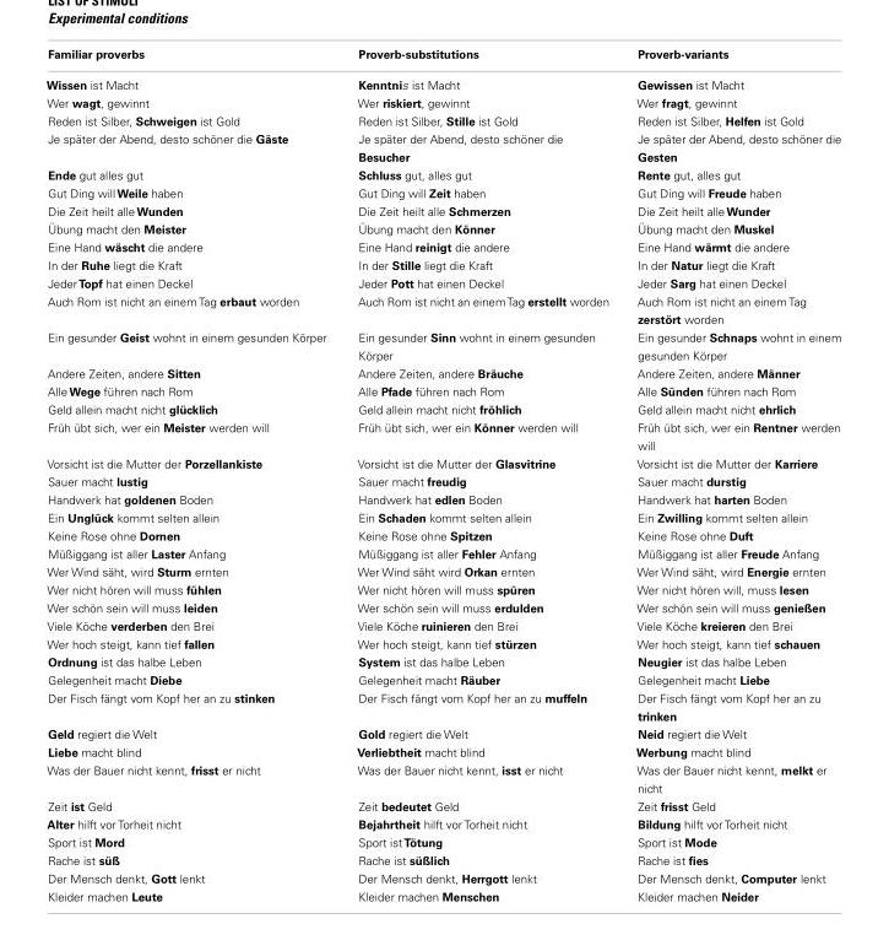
<table><thead><tr><td>Familiar proverbs</td><td>Proverb-substitutions</td><td>Proverb-variants</td></tr></thead><tbody><tr><td>Wissen ist Macht</td><td>Kenntnis ist Macht</td><td>Gewissen ist Macht</td></tr><tr><td>Wer wagt, gewinnt</td><td>Wer riskiert, gewinnt</td><td>Wer fragt, gewinnt</td></tr><tr><td>Reden ist Silber, Schweigen ist Gold</td><td>Reden ist Silber, Stille ist Gold</td><td>Reden ist Silber, Helfen ist Gold</td></tr><tr><td>Je später der Abend, desto schöner die Gäste</td><td>Je später der Abend, desto schöner die Besucher</td><td>Je später der Abend, desto schöner die Gesten</td></tr><tr><td>Ende gut alles gut</td><td>Schluss gut, alles gut</td><td>Rente gut, alles gut</td></tr><tr><td>Gut Ding will Weile haben</td><td>Gut Ding will Zeit haben</td><td>Gut Ding will Freude haben</td></tr><tr><td>Die Zeit heilt alle Wunden</td><td>Die Zeit heilt alle Schmerzen</td><td>Die Zeit heilt alle Wunder</td></tr><tr><td>Übung macht den Meister</td><td>Übung macht den Könner</td><td>Übung macht den Muskel</td></tr><tr><td>Eine Hand wäscht die andere</td><td>Eine Hand reinigt die andere</td><td>Eine Hand wärmt die andere</td></tr><tr><td>In der Ruhe liegt die Kraft</td><td>In der Stille liegt die Kraft</td><td>In der Natur liegt die Kraft</td></tr><tr><td>JederTopf hat einen Deckel</td><td>Jeder Pott hat einen Deckel</td><td>Jeder Sarg hat einen Deckel</td></tr><tr><td>Auch Rom ist nicht an einem Tag erbaut worden</td><td>Auch Rom ist nicht an einemTag erstellt worden</td><td>Auch Rom ist nicht an einem Tag zerstört worden</td></tr><tr><td>Ein gesunder Geist wohnt in einem gesunden Körper</td><td>Ein gesunder Sinn wohnt in einem gesunden Körper</td><td>Ein gesunder Schnaps wohnt in einem gesunden Körper</td></tr><tr><td>Andere Zeiten, andere Sitten</td><td>Andere Zeiten, andere Bräuche</td><td>Andere Zeiten, andere Männer</td></tr><tr><td>Alle Wege führen nach Rom</td><td>Alle Pfade führen nach Rom</td><td>Alle Sünden führen nach Rom</td></tr><tr><td>Geld allein macht nicht glücklich</td><td>Geld allein macht nicht fröhlich</td><td>Geld allein macht nicht ehrlich</td></tr><tr><td>Früh übt sich, wer ein Meister werden will</td><td>Früh übt sich, wer ein Könner werden will</td><td>Früh übt sich, wer ein Rentner werden will</td></tr><tr><td>Vorsicht ist die Mutter der Porzellankiste</td><td>Vorsicht ist die Mutter der Glasvitrine</td><td>Vorsicht ist die Mutter der Karriere</td></tr><tr><td>Sauer macht lustig</td><td>Sauer macht freudig</td><td>Sauer macht durstig</td></tr><tr><td>Handwerk hat goldenen Boden</td><td>Handwerk hat edlen Boden</td><td>Handwerk hat harten Boden</td></tr><tr><td>Ein Unglück kommt selten allein</td><td>Ein Schaden kommt selten allein</td><td>Ein Zwilling kommt selten allein</td></tr><tr><td>Keine Rose ohne Dornen</td><td>Keine Rose ohne Spitzen</td><td>Keine Rose ohne Duft</td></tr><tr><td>Müßiggang ist aller Laster Anfang</td><td>Müßiggang ist aller Fehler Anfang</td><td>Müßiggang ist aller Freude Anfang</td></tr><tr><td>Wer Wind säht, wird Sturm ernten</td><td>Wer Wind säht wird Orkan ernten</td><td>Wer Wind säht, wird Energie ernten</td></tr><tr><td>Wer nicht hören will muss fühlen</td><td>Wer nicht hören will muss spüren</td><td>Wer nicht hören will, muss lesen</td></tr><tr><td>Wer schön sein will muss leiden</td><td>Wer schön sein will muss erdulden</td><td>Wer schön sein will muss genießen</td></tr><tr><td>Viele Köche verderben den Brei</td><td>Viele Köche ruinieren den Brei</td><td>Viele Köche kreieren den Brei</td></tr><tr><td>Wer hoch steigt, kann tief fallen</td><td>Wer hoch steigt, kann tief stürzen</td><td>Wer hoch steigt, kann tief schauen</td></tr><tr><td>Ordnung ist das halbe Leben</td><td>System ist das halbe Leben</td><td>Neugier ist das halbe Leben</td></tr><tr><td>Gelegenheit macht Diebe</td><td>Gelegenheit macht Räuber</td><td>Gelegenheit macht Liebe</td></tr><tr><td>Der Fisch fängt vom Kopf her an zu stinken</td><td>Der Fisch fängt vom Kopf her an zu muffeln</td><td>Der Fisch fängt vom Kopf her an zu trinken</td></tr><tr><td>Geld regiert die Welt</td><td>Gold regiert die Welt</td><td>Neid regiert die Welt</td></tr><tr><td>Liebe macht blind</td><td>Verliebtheit macht blind</td><td>Werbung macht blind</td></tr><tr><td>Was der Bauer nicht kennt, frisst er nicht</td><td>Was der Bauer nicht kennt, isst er nicht</td><td>Was der Bauer nicht kennt, melkt er nicht</td></tr><tr><td>Zeit ist Geld</td><td>Zeit bedeutet Geld</td><td>Zeit frisst Geld</td></tr><tr><td>Alter hilft vor Torheit nicht</td><td>Bejahrtheit hilft vor Torheit nicht</td><td>Bildung hilft vor Torheit nicht</td></tr><tr><td>Sport ist Mord</td><td>Sport istTötung</td><td>Sport ist Mode</td></tr><tr><td>Rache ist süß</td><td>Rache ist süßlich</td><td>Rache ist fies</td></tr><tr><td>Der Mensch denkt, Gott lenkt</td><td>Der Mensch denkt, Herrgott lenkt</td><td>Der Mensch denkt, Computer lenkt</td></tr><tr><td>Kleider machen Leute</td><td>Kleider machen Menschen</td><td>Kleider machen Neider</td></tr></tbody></table>